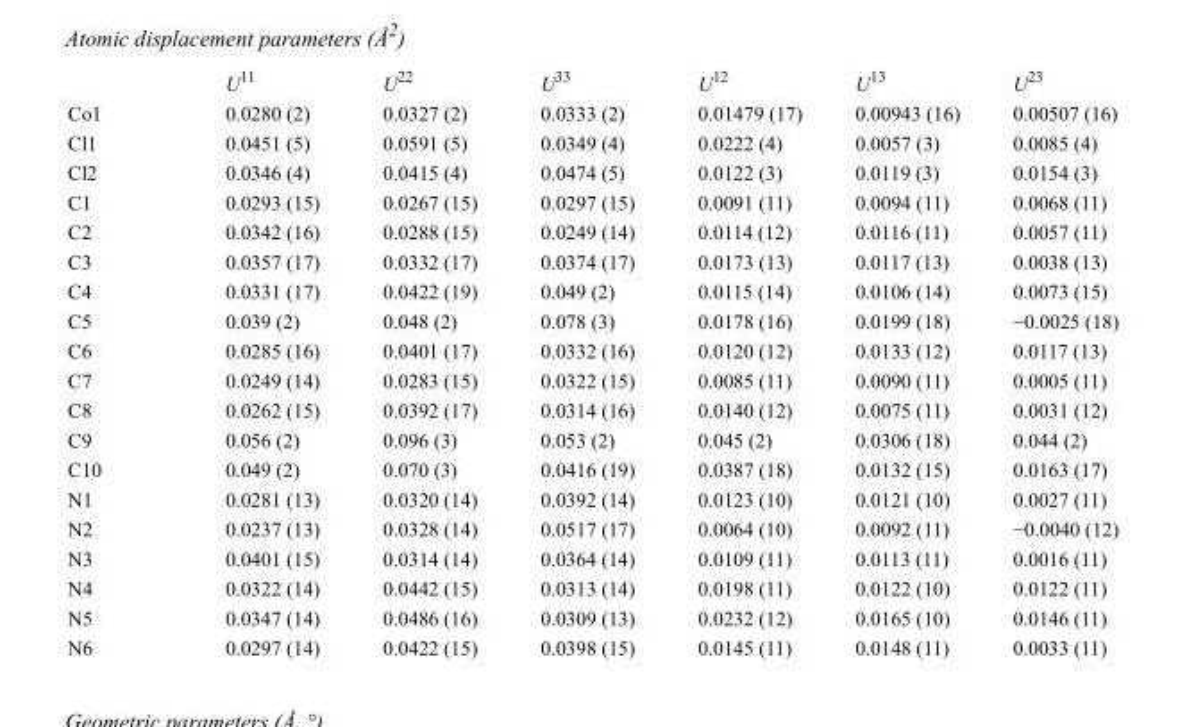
<table><thead><tr><td></td><td>U<sup>11</sup></td><td>U<sup>22</sup></td><td>U<sup>33</sup></td><td>U<sup>12</sup></td><td>U<sup>13</sup></td><td>U<sup>23</sup></td></tr></thead><tbody><tr><td>Co1</td><td>0.0280 (2)</td><td>0.0327 (2)</td><td>0.0333 (2)</td><td>0.01479 (17)</td><td>0.00943 (16)</td><td>0.00507 (16)</td></tr><tr><td>Cl1</td><td>0.0451 (5)</td><td>0.0591 (5)</td><td>0.0349 (4)</td><td>0.0222 (4)</td><td>0.0057 (3)</td><td>0.0085 (4)</td></tr><tr><td>Cl2</td><td>0.0346 (4)</td><td>0.0415 (4)</td><td>0.0474 (5)</td><td>0.0122 (3)</td><td>0.0119 (3)</td><td>0.0154 (3)</td></tr><tr><td>C1</td><td>0.0293 (15)</td><td>0.0267 (15)</td><td>0.0297 (15)</td><td>0.0091 (11)</td><td>0.0094 (11)</td><td>0.0068 (11)</td></tr><tr><td>C2</td><td>0.0342 (16)</td><td>0.0288 (15)</td><td>0.0249 (14)</td><td>0.0114 (12)</td><td>0.0116 (11)</td><td>0.0057 (11)</td></tr><tr><td>C3</td><td>0.0357 (17)</td><td>0.0332 (17)</td><td>0.0374 (17)</td><td>0.0173 (13)</td><td>0.0117 (13)</td><td>0.0038 (13)</td></tr><tr><td>C4</td><td>0.0331 (17)</td><td>0.0422 (19)</td><td>0.049 (2)</td><td>0.0115 (14)</td><td>0.0106 (14)</td><td>0.0073 (15)</td></tr><tr><td>C5</td><td>0.039 (2)</td><td>0.048 (2)</td><td>0.078 (3)</td><td>0.0178 (16)</td><td>0.0199 (18)</td><td>−0.0025 (18)</td></tr><tr><td>C6</td><td>0.0285 (16)</td><td>0.0401 (17)</td><td>0.0332 (16)</td><td>0.0120 (12)</td><td>0.0133 (12)</td><td>0.0117 (13)</td></tr><tr><td>C7</td><td>0.0249 (14)</td><td>0.0283 (15)</td><td>0.0322 (15)</td><td>0.0085 (11)</td><td>0.0090 (11)</td><td>0.0005 (11)</td></tr><tr><td>C8</td><td>0.0262 (15)</td><td>0.0392 (17)</td><td>0.0314 (16)</td><td>0.0140 (12)</td><td>0.0075 (11)</td><td>0.0031 (12)</td></tr><tr><td>C9</td><td>0.056 (2)</td><td>0.096 (3)</td><td>0.053 (2)</td><td>0.045 (2)</td><td>0.0306 (18)</td><td>0.044 (2)</td></tr><tr><td>C10</td><td>0.049 (2)</td><td>0.070 (3)</td><td>0.0416 (19)</td><td>0.0387 (18)</td><td>0.0132 (15)</td><td>0.0163 (17)</td></tr><tr><td>N1</td><td>0.0281 (13)</td><td>0.0320 (14)</td><td>0.0392 (14)</td><td>0.0123 (10)</td><td>0.0121 (10)</td><td>0.0027 (11)</td></tr><tr><td>N2</td><td>0.0237 (13)</td><td>0.0328 (14)</td><td>0.0517 (17)</td><td>0.0064 (10)</td><td>0.0092 (11)</td><td>−0.0040 (12)</td></tr><tr><td>N3</td><td>0.0401 (15)</td><td>0.0314 (14)</td><td>0.0364 (14)</td><td>0.0109 (11)</td><td>0.0113 (11)</td><td>0.0016 (11)</td></tr><tr><td>N4</td><td>0.0322 (14)</td><td>0.0442 (15)</td><td>0.0313 (14)</td><td>0.0198 (11)</td><td>0.0122 (10)</td><td>0.0122 (11)</td></tr><tr><td>N5</td><td>0.0347 (14)</td><td>0.0486 (16)</td><td>0.0309 (13)</td><td>0.0232 (12)</td><td>0.0165 (10)</td><td>0.0146 (11)</td></tr><tr><td>N6</td><td>0.0297 (14)</td><td>0.0422 (15)</td><td>0.0398 (15)</td><td>0.0145 (11)</td><td>0.0148 (11)</td><td>0.0033 (11)</td></tr></tbody></table>